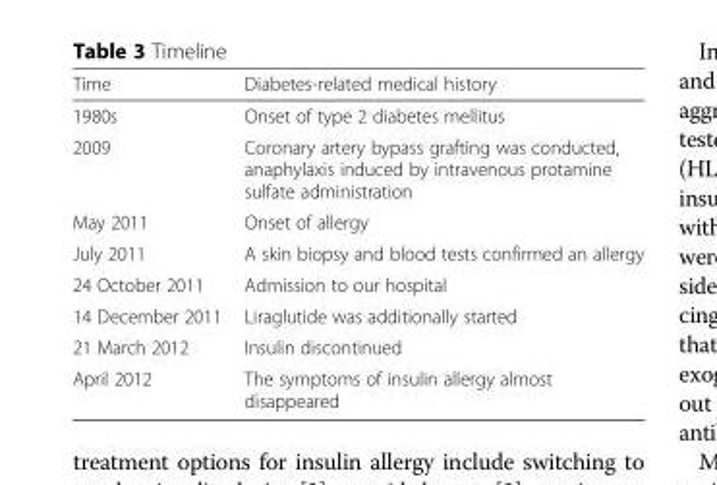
<table><thead><tr><td>Time</td><td>Diabetes-related medical history</td></tr></thead><tbody><tr><td>1980s</td><td>Onset of type 2 diabetes mellitus</td></tr><tr><td>2009</td><td>Coronary artery bypass grafting was conducted, anaphylaxis induced by intravenous protamine sulfate administration</td></tr><tr><td>May 2011</td><td>Onset of allergy</td></tr><tr><td>July 2011</td><td>A skin biopsy and blood tests confirmed an allergy</td></tr><tr><td>24 October 2011</td><td>Admission to our hospital</td></tr><tr><td>14 December 2011</td><td>Liraglutide was additionally started</td></tr><tr><td>21 March 2012</td><td>Insulin discontinued</td></tr><tr><td>April 2012</td><td>The symptoms of insulin allergy almost disappeared</td></tr></tbody></table>